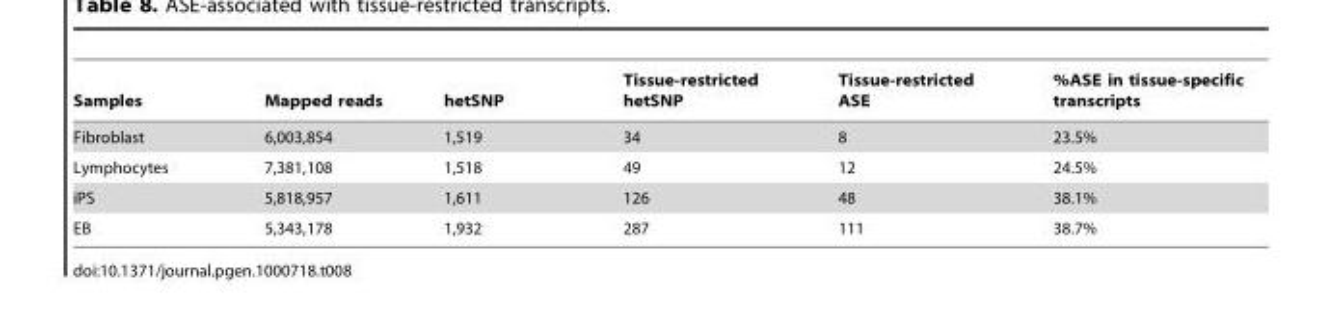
<table><thead><tr><td>Samples</td><td>Mapped reads</td><td>hetSNP</td><td>Tissue-restricted hetSNP</td><td>Tissue-restricted ASE</td><td>%ASE in tissue-specific transcripts</td></tr></thead><tbody><tr><td>Fibroblast</td><td>6,003,854</td><td>1,519</td><td>34</td><td>8</td><td>23.5%</td></tr><tr><td>Lymphocytes</td><td>7,381,108</td><td>1,518</td><td>49</td><td>12</td><td>24.5%</td></tr><tr><td>iPS</td><td>5,818,957</td><td>1,611</td><td>126</td><td>48</td><td>38.1%</td></tr><tr><td>EB</td><td>5,343,178</td><td>1,932</td><td>287</td><td>111</td><td>38.7%</td></tr></tbody></table>